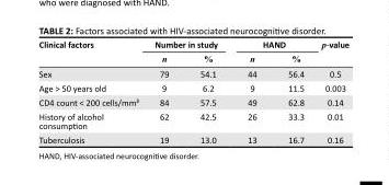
<table><thead><tr><td rowspan="2">Clinical factors</td><td colspan="2">Number in study</td><td colspan="2">HAND</td><td rowspan="2">p-value</td></tr><tr><td>n</td><td>%</td><td>n</td><td>%</td></tr></thead><tbody><tr><td>Sex</td><td>79</td><td>54.1</td><td>44</td><td>56.4</td><td>0.5</td></tr><tr><td>Age &gt; 50 years old</td><td>9</td><td>6.2</td><td>9</td><td>11.5</td><td>0.003</td></tr><tr><td>CD4 count &lt; 200 cells/mm³</td><td>84</td><td>57.5</td><td>49</td><td>62.8</td><td>0.14</td></tr><tr><td>History of alcohol consumption</td><td>62</td><td>42.5</td><td>26</td><td>33.3</td><td>0.01</td></tr><tr><td>Tuberculosis</td><td>19</td><td>13.0</td><td>13</td><td>16.7</td><td>0.16</td></tr></tbody></table>